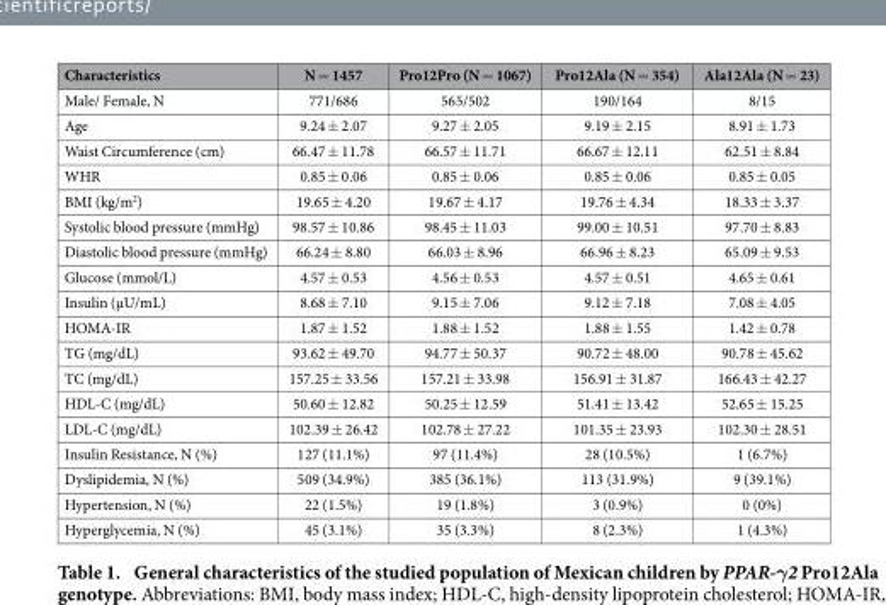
<table><thead><tr><td>Characteristics</td><td>N = 1457</td><td>Pro12Pro (N = 1067)</td><td>Pro12Ala (N = 354)</td><td>Ala12Ala (N = 23)</td></tr></thead><tbody><tr><td>Male/ Female, N</td><td>771/686</td><td>565/502</td><td>190/164</td><td>8/15</td></tr><tr><td>Age</td><td>9.24 ± 2.07</td><td>9.27 ± 2.05</td><td>9.19 ± 2.15</td><td>8.91 ± 1.73</td></tr><tr><td>Waist Circumference (cm)</td><td>66.47 ± 11.78</td><td>66.57 ± 11.71</td><td>66.67 ± 12.11</td><td>62.51 ± 8.84</td></tr><tr><td>WHR</td><td>0.85 ± 0.06</td><td>0.85 ± 0.06</td><td>0.85 ± 0.06</td><td>0.85 ± 0.05</td></tr><tr><td>BMI (kg/m<sup>2</sup>)</td><td>19.65 ± 4.20</td><td>19.67 ± 4.17</td><td>19.76 ± 4.34</td><td>18.33 ± 3.37</td></tr><tr><td>Systolic blood pressure (mmHg)</td><td>98.57 ± 10.86</td><td>98.45 ± 11.03</td><td>99.00 ± 10.51</td><td>97.70 ± 8.83</td></tr><tr><td>Diastolic blood pressure (mmHg)</td><td>66.24 ± 8.80</td><td>66.03 ± 8.96</td><td>66.96 ± 8.23</td><td>65.09 ± 9.53</td></tr><tr><td>Glucose (mmol/L)</td><td>4.57 ± 0.53</td><td>4.56 ± 0.53</td><td>4.57 ± 0.51</td><td>4.65 ± 0.61</td></tr><tr><td>Insulin (μU/mL)</td><td>8.68 ± 7.10</td><td>9.15 ± 7.06</td><td>9.12 ± 7.18</td><td>7.08 ± 4.05</td></tr><tr><td>HOMA-IR</td><td>1.87 ± 1.52</td><td>1.88 ± 1.52</td><td>1.88 ± 1.55</td><td>1.42 ± 0.78</td></tr><tr><td>TG (mg/dL)</td><td>93.62 ± 49.70</td><td>94.77 ± 50.37</td><td>90.72 ± 48.00</td><td>90.78 ± 45.62</td></tr><tr><td>TC (mg/dL)</td><td>157.25 ± 33.56</td><td>157.21 ± 33.98</td><td>156.91 ± 31.87</td><td>166.43 ± 42.27</td></tr><tr><td>HDL-C (mg/dL)</td><td>50.60 ± 12.82</td><td>50.25 ± 12.59</td><td>51.41 ± 13.42</td><td>52.65 ± 15.25</td></tr><tr><td>LDL-C (mg/dL)</td><td>102.39 ± 26.42</td><td>102.78 ± 27.22</td><td>101.35 ± 23.93</td><td>102.30 ± 28.51</td></tr><tr><td>Insulin Resistance, N (%)</td><td>127 (11.1%)</td><td>97 (11.4%)</td><td>28 (10.5%)</td><td>1 (6.7%)</td></tr><tr><td>Dyslipidemia, N (%)</td><td>509 (34.9%)</td><td>385 (36.1%)</td><td>113 (31.9%)</td><td>9 (39.1%)</td></tr><tr><td>Hypertension, N (%)</td><td>22 (1.5%)</td><td>19 (1.8%)</td><td>3 (0.9%)</td><td>0 (0%)</td></tr><tr><td>Hyperglycemia, N (%)</td><td>45 (3.1%)</td><td>35 (3.3%)</td><td>8 (2.3%)</td><td>1 (4.3%)</td></tr></tbody></table>